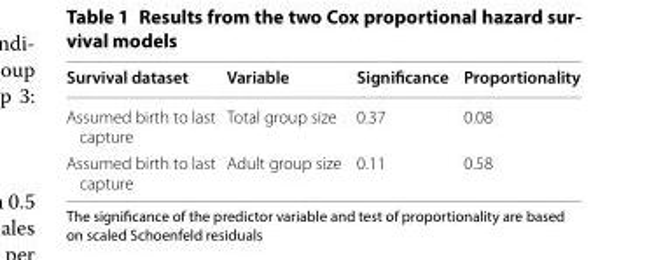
<table><thead><tr><td>Survival dataset</td><td>Variable</td><td>Significance</td><td>Proportionality</td></tr></thead><tbody><tr><td>Assumed birth to last capture</td><td>Total group size</td><td>0.37</td><td>0.08</td></tr><tr><td>Assumed birth to last capture</td><td>Adult group size</td><td>0.11</td><td>0.58</td></tr></tbody></table>